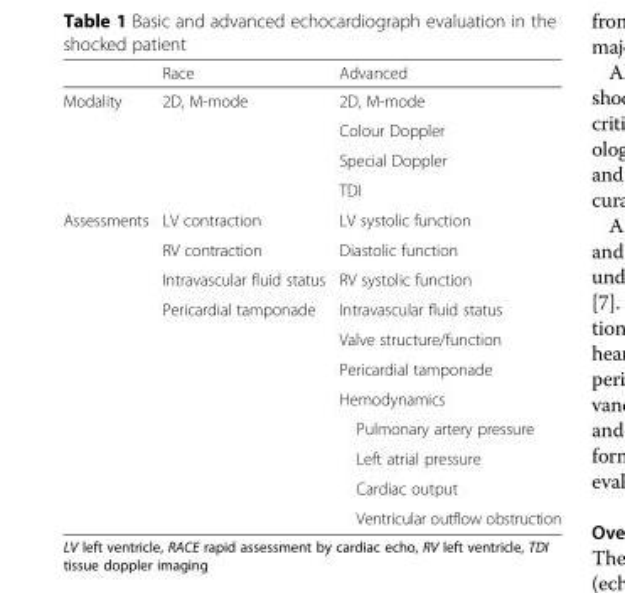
<table><thead><tr><td></td><td>Race</td><td>Advanced</td></tr></thead><tbody><tr><td rowspan="4">Modality</td><td rowspan="4">2D, M-mode</td><td>2D, M-mode</td></tr><tr><td>Colour Doppler</td></tr><tr><td>Special Doppler</td></tr><tr><td>TDI</td></tr><tr><td rowspan="11">Assessments</td><td>LV contraction</td><td>LV systolic function</td></tr><tr><td>RV contraction</td><td>Diastolic function</td></tr><tr><td>Intravascular fluid status</td><td>RV systolic function</td></tr><tr><td rowspan="8">Pericardial tamponade</td><td>Intravascular fluid status</td></tr><tr><td>Valve structure/function</td></tr><tr><td>Pericardial tamponade</td></tr><tr><td>Hemodynamics</td></tr><tr><td>Pulmonary artery pressure</td></tr><tr><td>Left atrial pressure</td></tr><tr><td>Cardiac output</td></tr><tr><td>Ventricular outflow obstruction</td></tr></tbody></table>